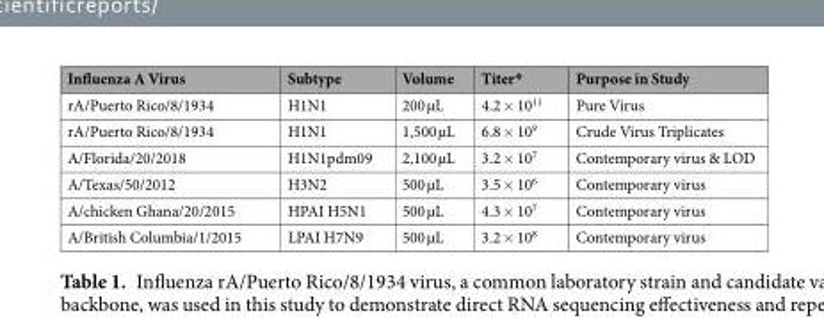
<table><thead><tr><td>Influenza A Virus</td><td>Subtype</td><td>Volume</td><td>Titer*</td><td>Purpose in Study</td></tr></thead><tbody><tr><td>rA/Puerto Rico/8/1934</td><td>H1N1</td><td>200 µL</td><td>4.2 × 10<sup>11</sup></td><td>Pure Virus</td></tr><tr><td>rA/Puerto Rico/8/1934</td><td>H1N1</td><td>1,500 µL</td><td>6.8 × 10<sup>9</sup></td><td>Crude Virus Triplicates</td></tr><tr><td>A/Florida/20/2018</td><td>H1N1pdm09</td><td>2,100 µL</td><td>3.2 × 10<sup>7</sup></td><td>Contemporary virus &amp; LOD</td></tr><tr><td>A/Texas/50/2012</td><td>H3N2</td><td>500 µL</td><td>3.5 × 10<sup>6</sup></td><td>Contemporary virus</td></tr><tr><td>A/chicken Ghana/20/2015</td><td>HPAI H5N1</td><td>500 µL</td><td>4.3 × 10<sup>7</sup></td><td>Contemporary virus</td></tr><tr><td>A/British Columbia/1/2015</td><td>LPAI H7N9</td><td>500 µL</td><td>3.2 × 10<sup>8</sup></td><td>Contemporary virus</td></tr></tbody></table>